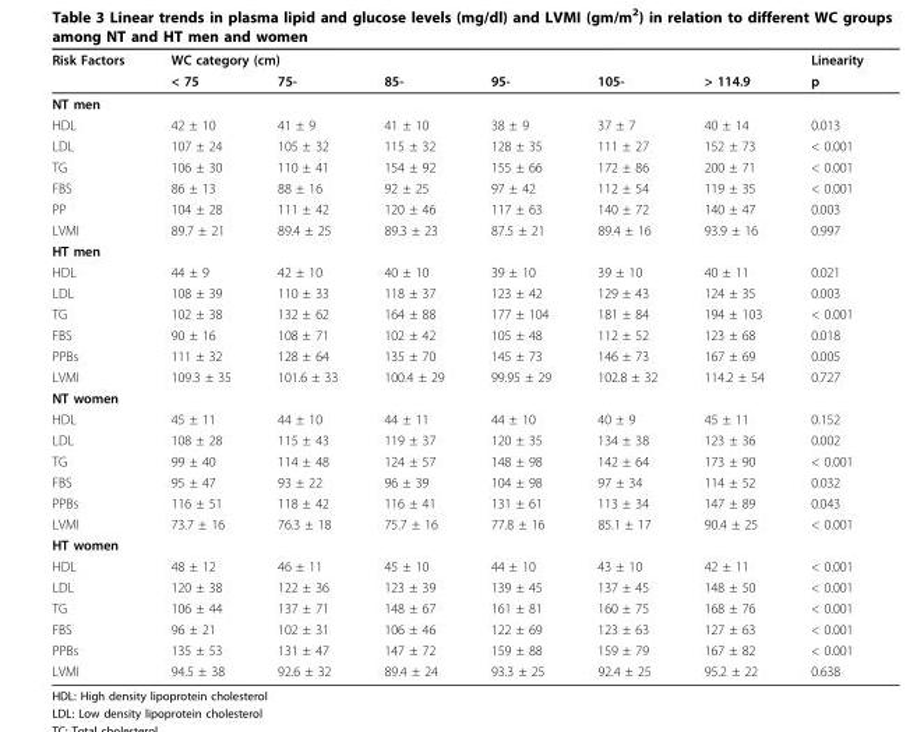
<table><thead><tr><td rowspan="2">Risk Factors</td><td colspan="6">WC category (cm)</td><td rowspan="2">Linearity p</td></tr><tr><td>&lt; 75</td><td>75-</td><td>85-</td><td>95-</td><td>105-</td><td>&gt; 114.9</td></tr></thead><tbody><tr><td colspan="8">NT men</td></tr><tr><td>HDL</td><td>42 ± 10</td><td>41 ± 9</td><td>41 ± 10</td><td>38 ± 9</td><td>37 ± 7</td><td>40 ± 14</td><td>0.013</td></tr><tr><td>LDL</td><td>107 ± 24</td><td>105 ± 32</td><td>115 ± 32</td><td>128 ± 35</td><td>111 ± 27</td><td>152 ± 73</td><td>&lt; 0.001</td></tr><tr><td>TG</td><td>106 ± 30</td><td>110 ± 41</td><td>154 ± 92</td><td>155 ± 66</td><td>172 ± 86</td><td>200 ± 71</td><td>&lt; 0.001</td></tr><tr><td>FBS</td><td>86 ± 13</td><td>88 ± 16</td><td>92 ± 25</td><td>97 ± 42</td><td>112 ± 54</td><td>119 ± 35</td><td>&lt; 0.001</td></tr><tr><td>PP</td><td>104 ± 28</td><td>111 ± 42</td><td>120 ± 46</td><td>117 ± 63</td><td>140 ± 72</td><td>140 ± 47</td><td>0.003</td></tr><tr><td>LVMI</td><td>89.7 ± 21</td><td>89.4 ± 25</td><td>89.3 ± 23</td><td>87.5 ± 21</td><td>89.4 ± 16</td><td>93.9 ± 16</td><td>0.997</td></tr><tr><td colspan="8">HT men</td></tr><tr><td>HDL</td><td>44 ± 9</td><td>42 ± 10</td><td>40 ± 10</td><td>39 ± 10</td><td>39 ± 10</td><td>40 ± 11</td><td>0.021</td></tr><tr><td>LDL</td><td>108 ± 39</td><td>110 ± 33</td><td>118 ± 37</td><td>123 ± 42</td><td>129 ± 43</td><td>124 ± 35</td><td>0.003</td></tr><tr><td>TG</td><td>102 ± 38</td><td>132 ± 62</td><td>164 ± 88</td><td>177 ± 104</td><td>181 ± 84</td><td>194 ± 103</td><td>&lt; 0.001</td></tr><tr><td>FBS</td><td>90 ± 16</td><td>108 ± 71</td><td>102 ± 42</td><td>105 ± 48</td><td>112 ± 52</td><td>123 ± 68</td><td>0.018</td></tr><tr><td>PPBs</td><td>111 ± 32</td><td>128 ± 64</td><td>135 ± 70</td><td>145 ± 73</td><td>146 ± 73</td><td>167 ± 69</td><td>0.005</td></tr><tr><td>LVMI</td><td>109.3 ± 35</td><td>101.6 ± 33</td><td>100.4 ± 29</td><td>99.95 ± 29</td><td>102.8 ± 32</td><td>114.2 ± 54</td><td>0.727</td></tr><tr><td colspan="8">NT women</td></tr><tr><td>HDL</td><td>45 ± 11</td><td>44 ± 10</td><td>44 ± 11</td><td>44 ± 10</td><td>40 ± 9</td><td>45 ± 11</td><td>0.152</td></tr><tr><td>LDL</td><td>108 ± 28</td><td>115 ± 43</td><td>119 ± 37</td><td>120 ± 35</td><td>134 ± 38</td><td>123 ± 36</td><td>0.002</td></tr><tr><td>TG</td><td>99 ± 40</td><td>114 ± 48</td><td>124 ± 57</td><td>148 ± 98</td><td>142 ± 64</td><td>173 ± 90</td><td>&lt; 0.001</td></tr><tr><td>FBS</td><td>95 ± 47</td><td>93 ± 22</td><td>96 ± 39</td><td>104 ± 98</td><td>97 ± 34</td><td>114 ± 52</td><td>0.032</td></tr><tr><td>PPBs</td><td>116 ± 51</td><td>118 ± 42</td><td>116 ± 41</td><td>131 ± 61</td><td>113 ± 34</td><td>147 ± 89</td><td>0.043</td></tr><tr><td>LVMI</td><td>73.7 ± 16</td><td>76.3 ± 18</td><td>75.7 ± 16</td><td>77.8 ± 16</td><td>85.1 ± 17</td><td>90.4 ± 25</td><td>&lt; 0.001</td></tr><tr><td colspan="8">HT women</td></tr><tr><td>HDL</td><td>48 ± 12</td><td>46 ± 11</td><td>45 ± 10</td><td>44 ± 10</td><td>43 ± 10</td><td>42 ± 11</td><td>&lt; 0.001</td></tr><tr><td>LDL</td><td>120 ± 38</td><td>122 ± 36</td><td>123 ± 39</td><td>139 ± 45</td><td>137 ± 45</td><td>148 ± 50</td><td>&lt; 0.001</td></tr><tr><td>TG</td><td>106 ± 44</td><td>137 ± 71</td><td>148 ± 67</td><td>161 ± 81</td><td>160 ± 75</td><td>168 ± 76</td><td>&lt; 0.001</td></tr><tr><td>FBS</td><td>96 ± 21</td><td>102 ± 31</td><td>106 ± 46</td><td>122 ± 69</td><td>123 ± 63</td><td>127 ± 63</td><td>&lt; 0.001</td></tr><tr><td>PPBs</td><td>135 ± 53</td><td>131 ± 47</td><td>147 ± 72</td><td>159 ± 88</td><td>159 ± 79</td><td>167 ± 82</td><td>&lt; 0.001</td></tr><tr><td>LVMI</td><td>94.5 ± 38</td><td>92.6 ± 32</td><td>89.4 ± 24</td><td>93.3 ± 25</td><td>92.4 ± 25</td><td>95.2 ± 22</td><td>0.638</td></tr></tbody></table>